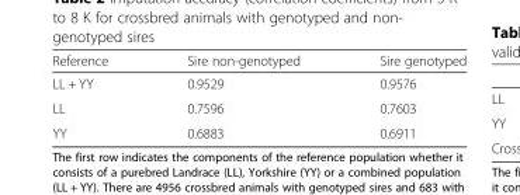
<table><thead><tr><td>Reference</td><td>Sire non-genotyped</td><td>Sire genotyped</td></tr></thead><tbody><tr><td>LL + YY</td><td>0.9529</td><td>0.9576</td></tr><tr><td>LL</td><td>0.7596</td><td>0.7603</td></tr><tr><td>YY</td><td>0.6883</td><td>0.6911</td></tr></tbody></table>